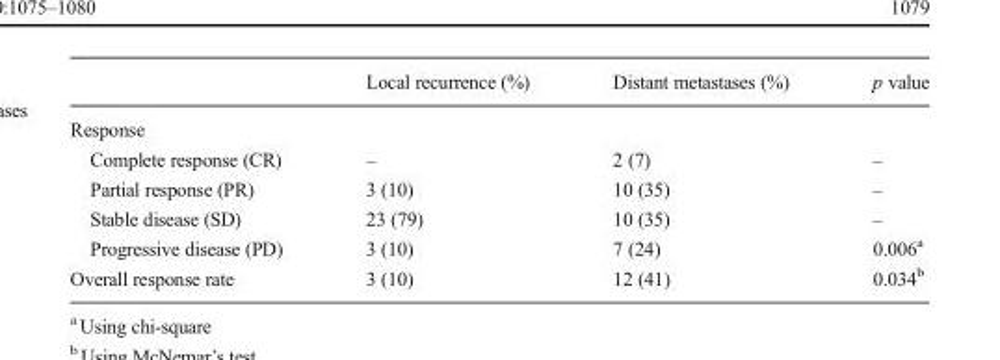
<table><thead><tr><td></td><td>Local recurrence (%)</td><td>Distant metastases (%)</td><td>p value</td></tr></thead><tbody><tr><td colspan="4">Response</td></tr><tr><td>Complete response (CR)</td><td>–</td><td>2 (7)</td><td>–</td></tr><tr><td>Partial response (PR)</td><td>3 (10)</td><td>10 (35)</td><td>–</td></tr><tr><td>Stable disease (SD)</td><td>23 (79)</td><td>10 (35)</td><td>–</td></tr><tr><td>Progressive disease (PD)</td><td>3 (10)</td><td>7 (24)</td><td>0.006<sup>a</sup></td></tr><tr><td>Overall response rate</td><td>3 (10)</td><td>12 (41)</td><td>0.034<sup>b</sup></td></tr></tbody></table>